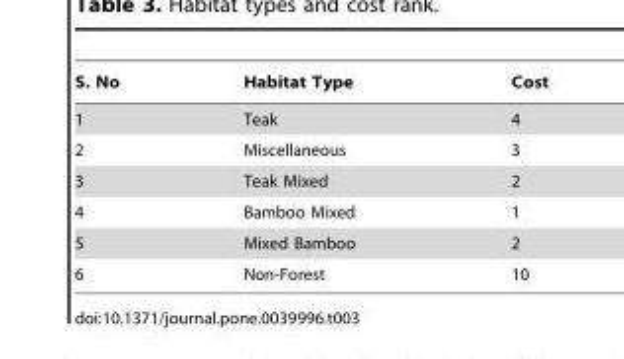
<table><thead><tr><td>S. No</td><td>Habitat Type</td><td>Cost</td></tr></thead><tbody><tr><td>1</td><td>Teak</td><td>4</td></tr><tr><td>2</td><td>Miscellaneous</td><td>3</td></tr><tr><td>3</td><td>Teak Mixed</td><td>2</td></tr><tr><td>4</td><td>Bamboo Mixed</td><td>1</td></tr><tr><td>5</td><td>Mixed Bamboo</td><td>2</td></tr><tr><td>6</td><td>Non-Forest</td><td>10</td></tr></tbody></table>